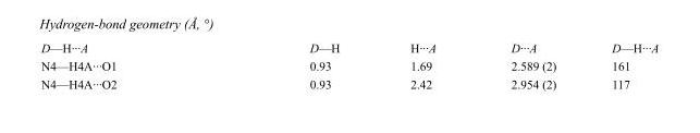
<table><tbody><tr><td>D—H···A</td><td>D—H</td><td>H···A</td><td>D···A</td><td>D—H···A</td></tr><tr><td>N4—H4A···O1</td><td>0.93</td><td>1.69</td><td>2.589 (2)</td><td>161</td></tr><tr><td>N4—H4A···O2</td><td>0.93</td><td>2.42</td><td>2.954 (2)</td><td>117</td></tr></tbody></table>